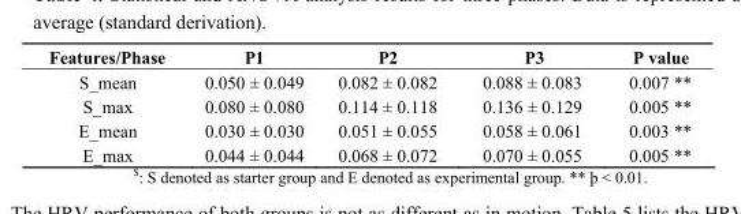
<table><thead><tr><td>Features/Phase</td><td>P1</td><td>P2</td><td>P3</td><td>P value</td></tr></thead><tbody><tr><td>S_mean</td><td>0.050 ± 0.049</td><td>0.082 ± 0.082</td><td>0.088 ± 0.083</td><td>0.007 **</td></tr><tr><td>S_max</td><td>0.080 ± 0.080</td><td>0.114 ± 0.118</td><td>0.136 ± 0.129</td><td>0.005 **</td></tr><tr><td>E_mean</td><td>0.030 ± 0.030</td><td>0.051 ± 0.055</td><td>0.058 ± 0.061</td><td>0.003 **</td></tr><tr><td>E_max</td><td>0.044 ± 0.044</td><td>0.068 ± 0.072</td><td>0.070 ± 0.055</td><td>0.005 **</td></tr></tbody></table>